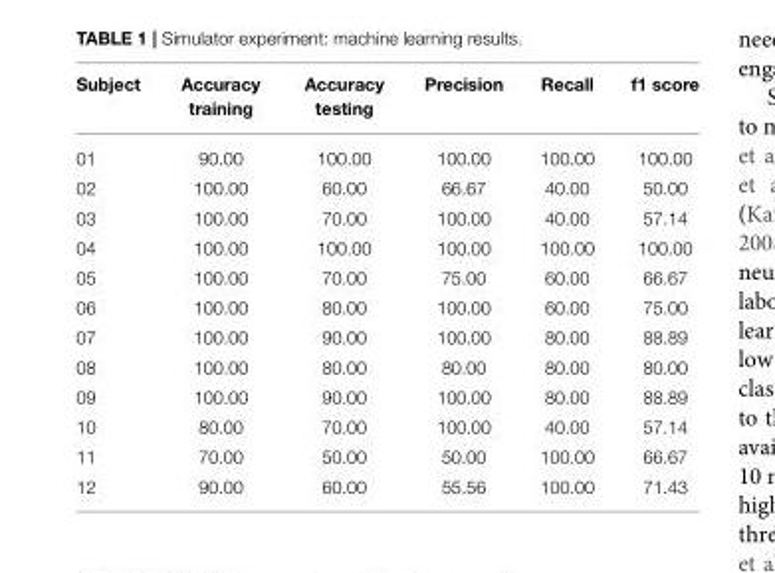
<table><thead><tr><td>Subject</td><td>Accuracy training</td><td>Accuracy testing</td><td>Precision</td><td>Recall</td><td>f1 score</td></tr></thead><tbody><tr><td>01</td><td>90.00</td><td>100.00</td><td>100.00</td><td>100.00</td><td>100.00</td></tr><tr><td>02</td><td>100.00</td><td>60.00</td><td>66.67</td><td>40.00</td><td>50.00</td></tr><tr><td>03</td><td>100.00</td><td>70.00</td><td>100.00</td><td>40.00</td><td>57.14</td></tr><tr><td>04</td><td>100.00</td><td>100.00</td><td>100.00</td><td>100.00</td><td>100.00</td></tr><tr><td>05</td><td>100.00</td><td>70.00</td><td>75.00</td><td>60.00</td><td>66.67</td></tr><tr><td>06</td><td>100.00</td><td>80.00</td><td>100.00</td><td>60.00</td><td>75.00</td></tr><tr><td>07</td><td>100.00</td><td>90.00</td><td>100.00</td><td>80.00</td><td>88.89</td></tr><tr><td>08</td><td>100.00</td><td>80.00</td><td>80.00</td><td>80.00</td><td>80.00</td></tr><tr><td>09</td><td>100.00</td><td>90.00</td><td>100.00</td><td>80.00</td><td>88.89</td></tr><tr><td>10</td><td>80.00</td><td>70.00</td><td>100.00</td><td>40.00</td><td>57.14</td></tr><tr><td>11</td><td>70.00</td><td>50.00</td><td>50.00</td><td>100.00</td><td>66.67</td></tr><tr><td>12</td><td>90.00</td><td>60.00</td><td>55.56</td><td>100.00</td><td>71.43</td></tr></tbody></table>